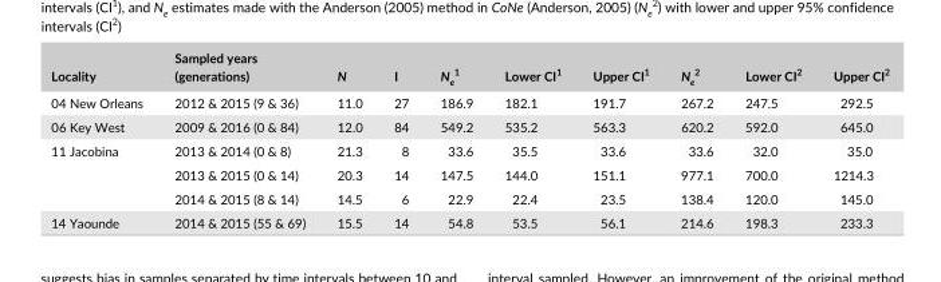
<table><thead><tr><td>Locality</td><td>Sampled years (generations)</td><td>N</td><td>I</td><td>N<sub>e</sub> <sup>1</sup></td><td>Lower CI<sup>1</sup></td><td>Upper CI<sup>1</sup></td><td>N<sub>e</sub> <sup>2</sup></td><td>Lower CI<sup>2</sup></td><td>Upper CI<sup>2</sup></td></tr></thead><tbody><tr><td>04 New Orleans</td><td>2012 &amp; 2015 (9 &amp; 36)</td><td>11.0</td><td>27</td><td>186.9</td><td>182.1</td><td>191.7</td><td>267.2</td><td>247.5</td><td>292.5</td></tr><tr><td>06 Key West</td><td>2009 &amp; 2016 (0 &amp; 84)</td><td>12.0</td><td>84</td><td>549.2</td><td>535.2</td><td>563.3</td><td>620.2</td><td>592.0</td><td>645.0</td></tr><tr><td rowspan="3">11 Jacobina</td><td>2013 &amp; 2014 (0 &amp; 8)</td><td>21.3</td><td>8</td><td>33.6</td><td>35.5</td><td>33.6</td><td>33.6</td><td>32.0</td><td>35.0</td></tr><tr><td>2013 &amp; 2015 (0 &amp; 14)</td><td>20.3</td><td>14</td><td>147.5</td><td>144.0</td><td>151.1</td><td>977.1</td><td>700.0</td><td>1214.3</td></tr><tr><td>2014 &amp; 2015 (8 &amp; 14)</td><td>14.5</td><td>6</td><td>22.9</td><td>22.4</td><td>23.5</td><td>138.4</td><td>120.0</td><td>145.0</td></tr><tr><td>14 Yaounde</td><td>2014 &amp; 2015 (55 &amp; 69)</td><td>15.5</td><td>14</td><td>54.8</td><td>53.5</td><td>56.1</td><td>214.6</td><td>198.3</td><td>233.3</td></tr></tbody></table>